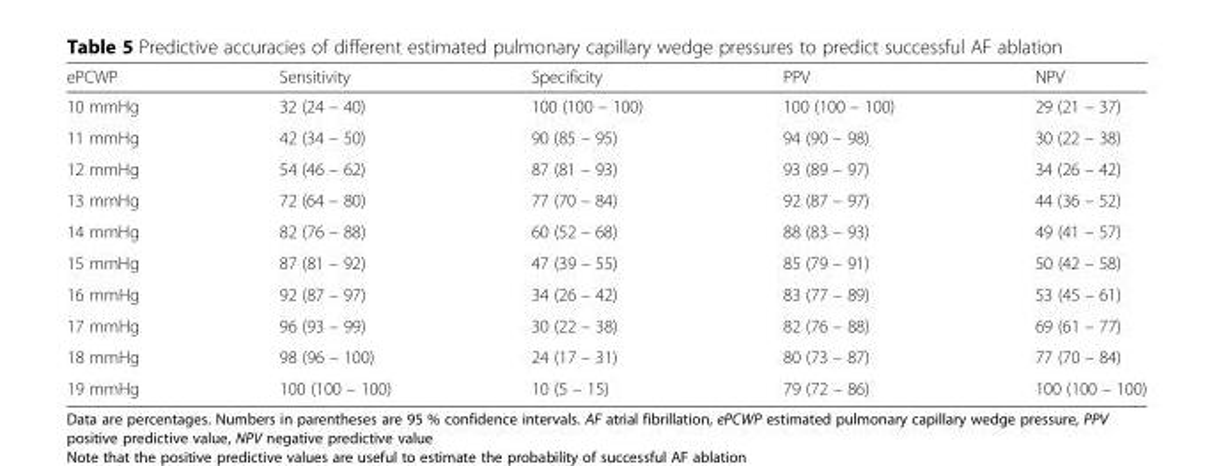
<table><thead><tr><td>ePCWP</td><td>Sensitivity</td><td>Specificity</td><td>PPV</td><td>NPV</td></tr></thead><tbody><tr><td>10 mmHg</td><td>32 (24 – 40)</td><td>100 (100 – 100)</td><td>100 (100 – 100)</td><td>29 (21 – 37)</td></tr><tr><td>11 mmHg</td><td>42 (34 – 50)</td><td>90 (85 – 95)</td><td>94 (90 – 98)</td><td>30 (22 – 38)</td></tr><tr><td>12 mmHg</td><td>54 (46 – 62)</td><td>87 (81 – 93)</td><td>93 (89 – 97)</td><td>34 (26 – 42)</td></tr><tr><td>13 mmHg</td><td>72 (64 – 80)</td><td>77 (70 – 84)</td><td>92 (87 – 97)</td><td>44 (36 – 52)</td></tr><tr><td>14 mmHg</td><td>82 (76 – 88)</td><td>60 (52 – 68)</td><td>88 (83 – 93)</td><td>49 (41 – 57)</td></tr><tr><td>15 mmHg</td><td>87 (81 – 92)</td><td>47 (39 – 55)</td><td>85 (79 – 91)</td><td>50 (42 – 58)</td></tr><tr><td>16 mmHg</td><td>92 (87 – 97)</td><td>34 (26 – 42)</td><td>83 (77 – 89)</td><td>53 (45 – 61)</td></tr><tr><td>17 mmHg</td><td>96 (93 – 99)</td><td>30 (22 – 38)</td><td>82 (76 – 88)</td><td>69 (61 – 77)</td></tr><tr><td>18 mmHg</td><td>98 (96 – 100)</td><td>24 (17 – 31)</td><td>80 (73 – 87)</td><td>77 (70 – 84)</td></tr><tr><td>19 mmHg</td><td>100 (100 – 100)</td><td>10 (5 – 15)</td><td>79 (72 – 86)</td><td>100 (100 – 100)</td></tr></tbody></table>